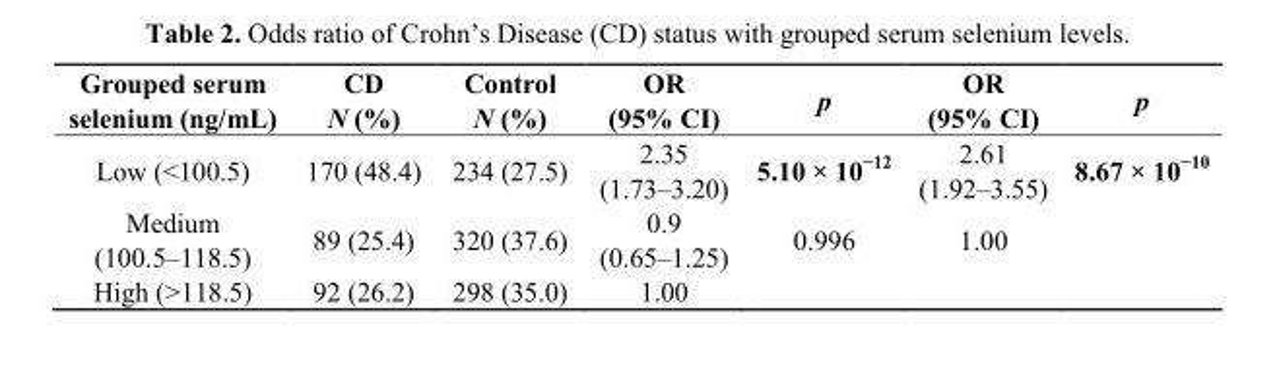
<table><thead><tr><td>Grouped serum selenium (ng/mL)</td><td>CD N (%)</td><td>Control N (%)</td><td>OR (95% CI)</td><td>p</td><td>OR (95% CI)</td><td>p</td></tr></thead><tbody><tr><td>Low (&lt;100.5)</td><td>170 (48.4)</td><td>234 (27.5)</td><td>2.35 (1.73–3.20)</td><td>5.10 × 10<sup>−12</sup></td><td>2.61 (1.92–3.55)</td><td>8.67 × 10<sup>−10</sup></td></tr><tr><td>Medium (100.5–118.5)</td><td>89 (25.4)</td><td>320 (37.6)</td><td>0.9 (0.65–1.25)</td><td>0.996</td><td>1.00</td><td></td></tr><tr><td>High (&gt;118.5)</td><td>92 (26.2)</td><td>298 (35.0)</td><td>1.00</td><td></td><td></td><td></td></tr></tbody></table>